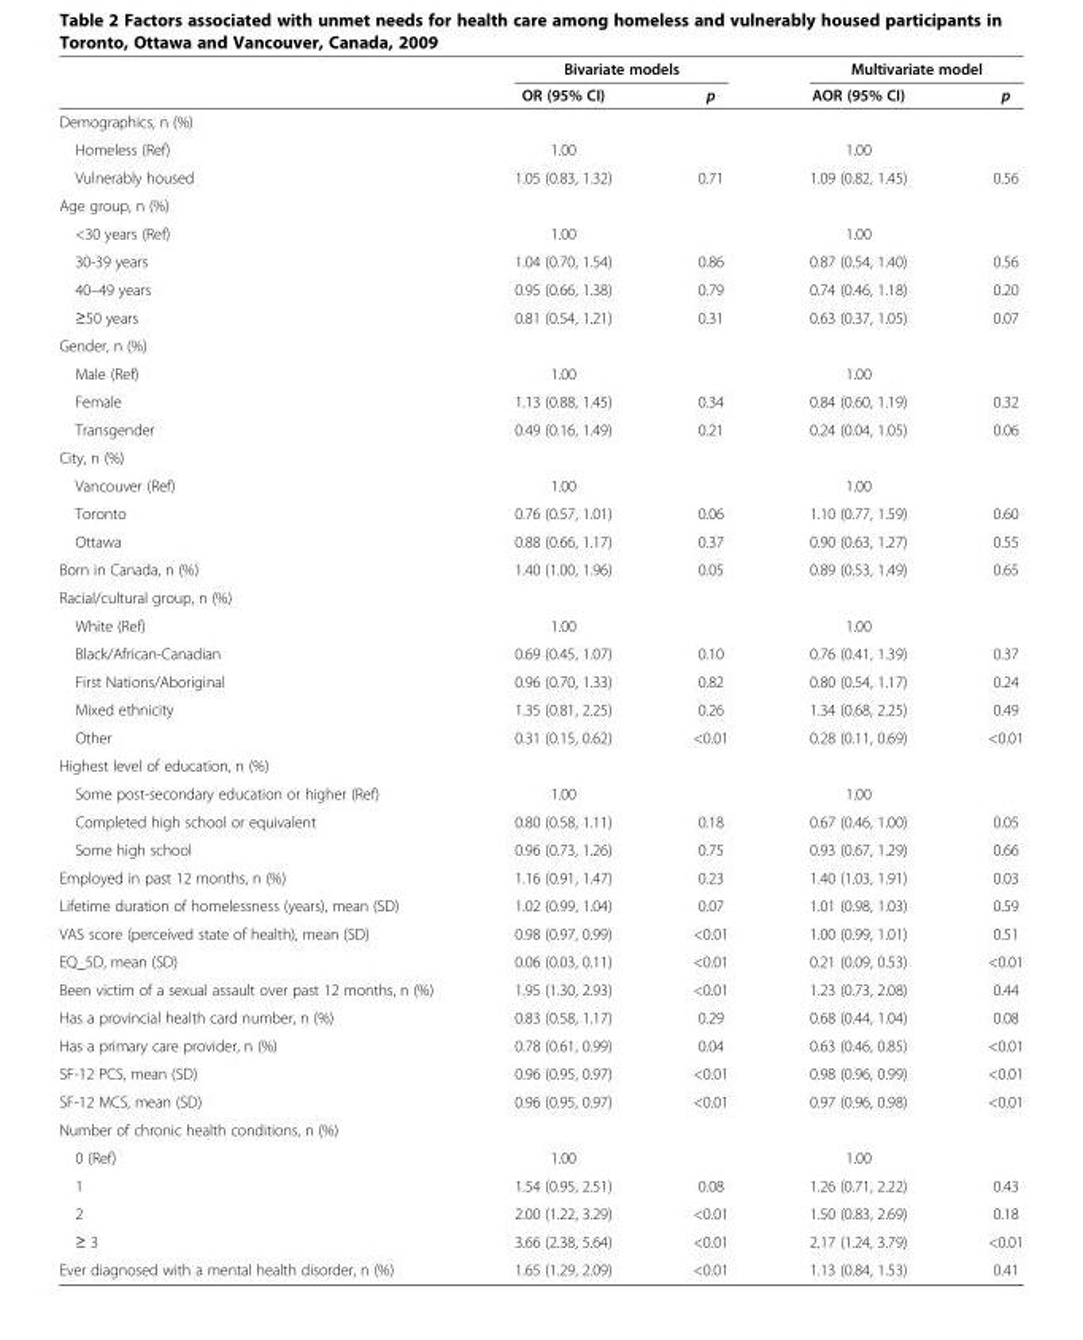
<table><thead><tr><td rowspan="2"></td><td colspan="2">Bivariate models</td><td colspan="2">Multivariate model</td></tr><tr><td>OR (95% CI)</td><td>p</td><td>AOR (95% CI)</td><td>p</td></tr></thead><tbody><tr><td colspan="5">Demographics, n (%)</td></tr><tr><td>Homeless (Ref)</td><td>1.00</td><td></td><td>1.00</td><td></td></tr><tr><td>Vulnerably housed</td><td>1.05 (0.83, 1.32)</td><td>0.71</td><td>1.09 (0.82, 1.45)</td><td>0.56</td></tr><tr><td colspan="5">Age group, n (%)</td></tr><tr><td>&lt;30 years (Ref)</td><td>1.00</td><td></td><td>1.00</td><td></td></tr><tr><td>30-39 years</td><td>1.04 (0.70, 1.54)</td><td>0.86</td><td>0.87 (0.54, 1.40)</td><td>0.56</td></tr><tr><td>40–49 years</td><td>0.95 (0.66, 1.38)</td><td>0.79</td><td>0.74 (0.46, 1.18)</td><td>0.20</td></tr><tr><td>≥50 years</td><td>0.81 (0.54, 1.21)</td><td>0.31</td><td>0.63 (0.37, 1.05)</td><td>0.07</td></tr><tr><td colspan="5">Gender, n (%)</td></tr><tr><td>Male (Ref)</td><td>1.00</td><td></td><td>1.00</td><td></td></tr><tr><td>Female</td><td>1.13 (0.88, 1.45)</td><td>0.34</td><td>0.84 (0.60, 1.19)</td><td>0.32</td></tr><tr><td>Transgender</td><td>0.49 (0.16, 1.49)</td><td>0.21</td><td>0.24 (0.04, 1.05)</td><td>0.06</td></tr><tr><td colspan="5">City, n (%)</td></tr><tr><td>Vancouver (Ref)</td><td>1.00</td><td></td><td>1.00</td><td></td></tr><tr><td>Toronto</td><td>0.76 (0.57, 1.01)</td><td>0.06</td><td>1.10 (0.77, 1.59)</td><td>0.60</td></tr><tr><td>Ottawa</td><td>0.88 (0.66, 1.17)</td><td>0.37</td><td>0.90 (0.63, 1.27)</td><td>0.55</td></tr><tr><td>Born in Canada, n (%)</td><td>1.40 (1.00, 1.96)</td><td>0.05</td><td>0.89 (0.53, 1.49)</td><td>0.65</td></tr><tr><td colspan="5">Racial/cultural group, n (%)</td></tr><tr><td>White (Ref)</td><td>1.00</td><td></td><td>1.00</td><td></td></tr><tr><td>Black/African-Canadian</td><td>0.69 (0.45, 1.07)</td><td>0.10</td><td>0.76 (0.41, 1.39)</td><td>0.37</td></tr><tr><td>First Nations/Aboriginal</td><td>0.96 (0.70, 1.33)</td><td>0.82</td><td>0.80 (0.54, 1.17)</td><td>0.24</td></tr><tr><td>Mixed ethnicity</td><td>1.35 (0.81, 2.25)</td><td>0.26</td><td>1.34 (0.68, 2.25)</td><td>0.49</td></tr><tr><td>Other</td><td>0.31 (0.15, 0.62)</td><td>&lt;0.01</td><td>0.28 (0.11, 0.69)</td><td>&lt;0.01</td></tr><tr><td colspan="5">Highest level of education, n (%)</td></tr><tr><td>Some post-secondary education or higher (Ref)</td><td>1.00</td><td></td><td>1.00</td><td></td></tr><tr><td>Completed high school or equivalent</td><td>0.80 (0.58, 1.11)</td><td>0.18</td><td>0.67 (0.46, 1.00)</td><td>0.05</td></tr><tr><td>Some high school</td><td>0.96 (0.73, 1.26)</td><td>0.75</td><td>0.93 (0.67, 1.29)</td><td>0.66</td></tr><tr><td>Employed in past 12 months, n (%)</td><td>1.16 (0.91, 1.47)</td><td>0.23</td><td>1.40 (1.03, 1.91)</td><td>0.03</td></tr><tr><td>Lifetime duration of homelessness (years), mean (SD)</td><td>1.02 (0.99, 1.04)</td><td>0.07</td><td>1.01 (0.98, 1.03)</td><td>0.59</td></tr><tr><td>VAS score (perceived state of health), mean (SD)</td><td>0.98 (0.97, 0.99)</td><td>&lt;0.01</td><td>1.00 (0.99, 1.01)</td><td>0.51</td></tr><tr><td>EQ_5D, mean (SD)</td><td>0.06 (0.03, 0.11)</td><td>&lt;0.01</td><td>0.21 (0.09, 0.53)</td><td>&lt;0.01</td></tr><tr><td>Been victim of a sexual assault over past 12 months, n (%)</td><td>1.95 (1.30, 2.93)</td><td>&lt;0.01</td><td>1.23 (0.73, 2.08)</td><td>0.44</td></tr><tr><td>Has a provincial health card number, n (%)</td><td>0.83 (0.58, 1.17)</td><td>0.29</td><td>0.68 (0.44, 1.04)</td><td>0.08</td></tr><tr><td>Has a primary care provider, n (%)</td><td>0.78 (0.61, 0.99)</td><td>0.04</td><td>0.63 (0.46, 0.85)</td><td>&lt;0.01</td></tr><tr><td>SF-12 PCS, mean (SD)</td><td>0.96 (0.95, 0.97)</td><td>&lt;0.01</td><td>0.98 (0.96, 0.99)</td><td>&lt;0.01</td></tr><tr><td>SF-12 MCS, mean (SD)</td><td>0.96 (0.95, 0.97)</td><td>&lt;0.01</td><td>0.97 (0.96, 0.98)</td><td>&lt;0.01</td></tr><tr><td colspan="5">Number of chronic health conditions, n (%)</td></tr><tr><td>0 (Ref)</td><td>1.00</td><td></td><td>1.00</td><td></td></tr><tr><td>1</td><td>1.54 (0.95, 2.51)</td><td>0.08</td><td>1.26 (0.71, 2.22)</td><td>0.43</td></tr><tr><td>2</td><td>2.00 (1.22, 3.29)</td><td>&lt;0.01</td><td>1.50 (0.83, 2.69)</td><td>0.18</td></tr><tr><td>≥ 3</td><td>3.66 (2.38, 5.64)</td><td>&lt;0.01</td><td>2.17 (1.24, 3.79)</td><td>&lt;0.01</td></tr><tr><td>Ever diagnosed with a mental health disorder, n (%)</td><td>1.65 (1.29, 2.09)</td><td>&lt;0.01</td><td>1.13 (0.84, 1.53)</td><td>0.41</td></tr></tbody></table>